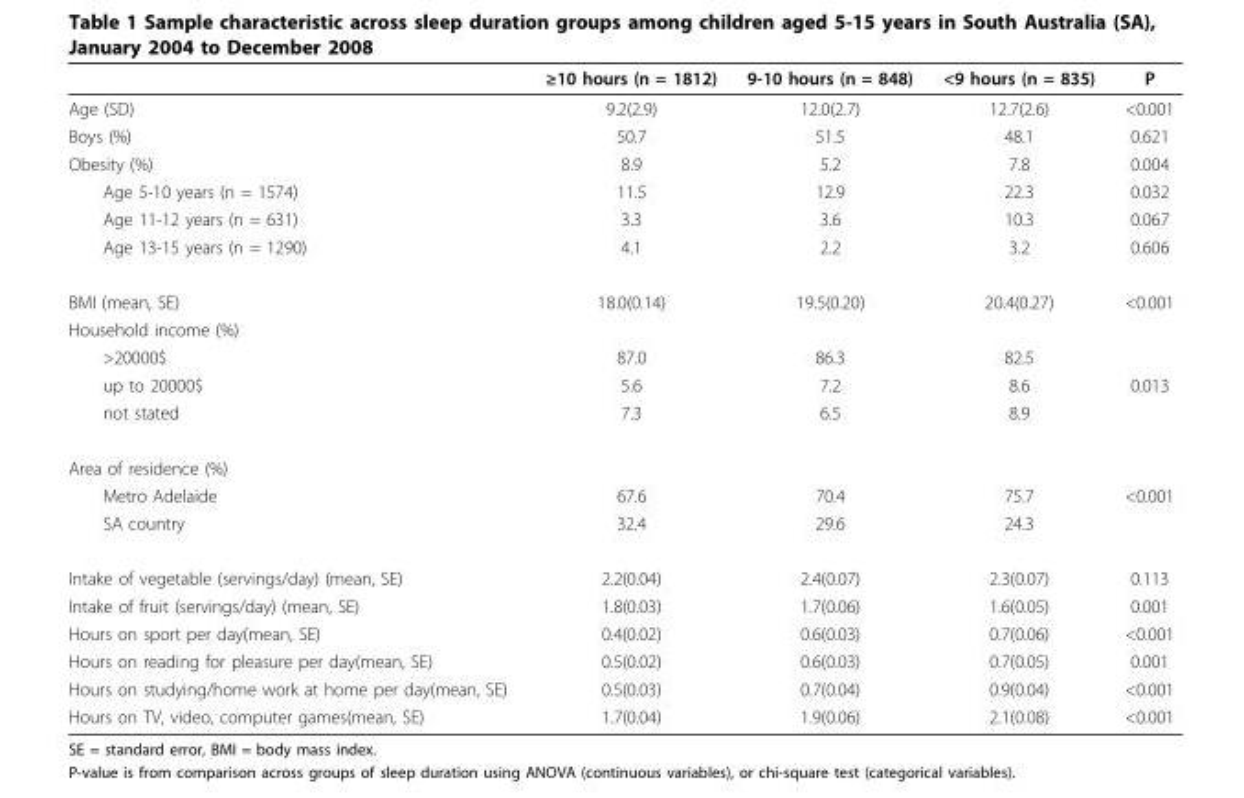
<table><thead><tr><td></td><td>≥10 hours (n = 1812)</td><td>9-10 hours (n = 848)</td><td>&lt;9 hours (n = 835)</td><td>P</td></tr></thead><tbody><tr><td>Age (SD)</td><td>9.2(2.9)</td><td>12.0(2.7)</td><td>12.7(2.6)</td><td>&lt;0.001</td></tr><tr><td>Boys (%)</td><td>50.7</td><td>51.5</td><td>48.1</td><td>0.621</td></tr><tr><td>Obesity (%)</td><td>8.9</td><td>5.2</td><td>7.8</td><td>0.004</td></tr><tr><td>Age 5-10 years (n = 1574)</td><td>11.5</td><td>12.9</td><td>22.3</td><td>0.032</td></tr><tr><td>Age 11-12 years (n = 631)</td><td>3.3</td><td>3.6</td><td>10.3</td><td>0.067</td></tr><tr><td>Age 13-15 years (n = 1290)</td><td>4.1</td><td>2.2</td><td>3.2</td><td>0.606</td></tr><tr><td>BMI (mean, SE)</td><td>18.0(0.14)</td><td>19.5(0.20)</td><td>20.4(0.27)</td><td>&lt;0.001</td></tr><tr><td colspan="5">Household income (%)</td></tr><tr><td>&gt;20000$</td><td>87.0</td><td>86.3</td><td>82.5</td><td></td></tr><tr><td>up to 20000$</td><td>5.6</td><td>7.2</td><td>8.6</td><td>0.013</td></tr><tr><td>not stated</td><td>7.3</td><td>6.5</td><td>8.9</td><td></td></tr><tr><td colspan="5">Area of residence (%)</td></tr><tr><td>Metro Adelaide</td><td>67.6</td><td>70.4</td><td>75.7</td><td>&lt;0.001</td></tr><tr><td>SA country</td><td>32.4</td><td>29.6</td><td>24.3</td><td></td></tr><tr><td>Intake of vegetable (servings/day) (mean, SE)</td><td>2.2(0.04)</td><td>2.4(0.07)</td><td>2.3(0.07)</td><td>0.113</td></tr><tr><td>Intake of fruit (servings/day) (mean, SE)</td><td>1.8(0.03)</td><td>1.7(0.06)</td><td>1.6(0.05)</td><td>0.001</td></tr><tr><td>Hours on sport per day(mean, SE)</td><td>0.4(0.02)</td><td>0.6(0.03)</td><td>0.7(0.06)</td><td>&lt;0.001</td></tr><tr><td>Hours on reading for pleasure per day(mean, SE)</td><td>0.5(0.02)</td><td>0.6(0.03)</td><td>0.7(0.05)</td><td>0.001</td></tr><tr><td>Hours on studying/home work at home per day(mean, SE)</td><td>0.5(0.03)</td><td>0.7(0.04)</td><td>0.9(0.04)</td><td>&lt;0.001</td></tr><tr><td>Hours on TV, video, computer games(mean, SE)</td><td>1.7(0.04)</td><td>1.9(0.06)</td><td>2.1(0.08)</td><td>&lt;0.001</td></tr></tbody></table>